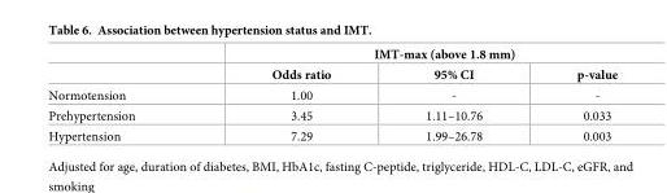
<table><thead><tr><td rowspan="2"></td><td colspan="3">IMT-max (above 1.8 mm)</td></tr><tr><td>Odds ratio</td><td>95% CI</td><td>p-value</td></tr></thead><tbody><tr><td>Normotension</td><td>1.00</td><td>-</td><td>-</td></tr><tr><td>Prehypertension</td><td>3.45</td><td>1.11–10.76</td><td>0.033</td></tr><tr><td>Hypertension</td><td>7.29</td><td>1.99–26.78</td><td>0.003</td></tr></tbody></table>